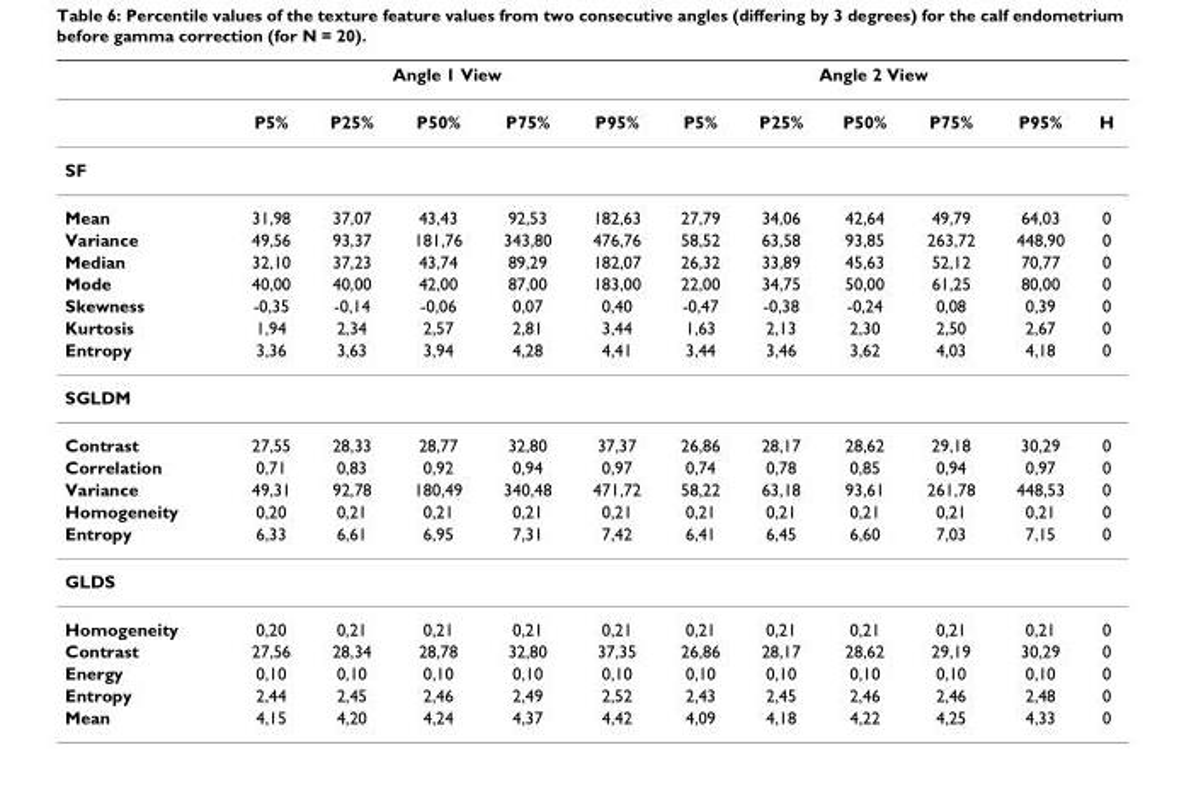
<table><thead><tr><td rowspan="2"></td><td colspan="5">Angle 1 View</td><td colspan="5">Angle 2 View</td><td rowspan="2">H</td></tr><tr><td>P5%</td><td>P25%</td><td>P50%</td><td>P75%</td><td>P95%</td><td>P5%</td><td>P25%</td><td>P50%</td><td>P75%</td><td>P95%</td></tr></thead><tbody><tr><td colspan="12">SF</td></tr><tr><td>Mean</td><td>31,98</td><td>37,07</td><td>43,43</td><td>92,53</td><td>182,63</td><td>27,79</td><td>34,06</td><td>42,64</td><td>49,79</td><td>64,03</td><td>0</td></tr><tr><td>Variance</td><td>49,56</td><td>93,37</td><td>181,76</td><td>343,80</td><td>476,76</td><td>58,52</td><td>63,58</td><td>93,85</td><td>263,72</td><td>448,90</td><td>0</td></tr><tr><td>Median</td><td>32,10</td><td>37,23</td><td>43,74</td><td>89,29</td><td>182,07</td><td>26,32</td><td>33,89</td><td>45,63</td><td>52,12</td><td>70,77</td><td>0</td></tr><tr><td>Mode</td><td>40,00</td><td>40,00</td><td>42,00</td><td>87,00</td><td>183,00</td><td>22,00</td><td>34,75</td><td>50,00</td><td>61,25</td><td>80,00</td><td>0</td></tr><tr><td>Skewness</td><td>-0,35</td><td>-0,14</td><td>-0,06</td><td>0,07</td><td>0,40</td><td>-0,47</td><td>-0,38</td><td>-0,24</td><td>0,08</td><td>0,39</td><td>0</td></tr><tr><td>Kurtosis</td><td>1,94</td><td>2,34</td><td>2,57</td><td>2,81</td><td>3,44</td><td>1,63</td><td>2,13</td><td>2,30</td><td>2,50</td><td>2,67</td><td>0</td></tr><tr><td>Entropy</td><td>3,36</td><td>3,63</td><td>3,94</td><td>4,28</td><td>4,41</td><td>3,44</td><td>3,46</td><td>3,62</td><td>4,03</td><td>4,18</td><td>0</td></tr><tr><td colspan="12">SGLDM</td></tr><tr><td>Contrast</td><td>27,55</td><td>28,33</td><td>28,77</td><td>32,80</td><td>37,37</td><td>26,86</td><td>28,17</td><td>28,62</td><td>29,18</td><td>30,29</td><td>0</td></tr><tr><td>Correlation</td><td>0,71</td><td>0,83</td><td>0,92</td><td>0,94</td><td>0,97</td><td>0,74</td><td>0,78</td><td>0,85</td><td>0,94</td><td>0,97</td><td>0</td></tr><tr><td>Variance</td><td>49,31</td><td>92,78</td><td>180,49</td><td>340,48</td><td>471,72</td><td>58,22</td><td>63,18</td><td>93,61</td><td>261,78</td><td>448,53</td><td>0</td></tr><tr><td>Homogeneity</td><td>0,20</td><td>0,21</td><td>0,21</td><td>0,21</td><td>0,21</td><td>0,21</td><td>0,21</td><td>0,21</td><td>0,21</td><td>0,21</td><td>0</td></tr><tr><td>Entropy</td><td>6,33</td><td>6,61</td><td>6,95</td><td>7,31</td><td>7,42</td><td>6,41</td><td>6,45</td><td>6,60</td><td>7,03</td><td>7,15</td><td>0</td></tr><tr><td colspan="12">GLDS</td></tr><tr><td>Homogeneity</td><td>0,20</td><td>0,21</td><td>0,21</td><td>0,21</td><td>0,21</td><td>0,21</td><td>0,21</td><td>0,21</td><td>0,21</td><td>0,21</td><td>0</td></tr><tr><td>Contrast</td><td>27,56</td><td>28,34</td><td>28,78</td><td>32,80</td><td>37,35</td><td>26,86</td><td>28,17</td><td>28,62</td><td>29,19</td><td>30,29</td><td>0</td></tr><tr><td>Energy</td><td>0,10</td><td>0,10</td><td>0,10</td><td>0,10</td><td>0,10</td><td>0,10</td><td>0,10</td><td>0,10</td><td>0,10</td><td>0,10</td><td>0</td></tr><tr><td>Entropy</td><td>2,44</td><td>2,45</td><td>2,46</td><td>2,49</td><td>2,52</td><td>2,43</td><td>2,45</td><td>2,46</td><td>2,46</td><td>2,48</td><td>0</td></tr><tr><td>Mean</td><td>4,15</td><td>4,20</td><td>4,24</td><td>4,37</td><td>4,42</td><td>4,09</td><td>4,18</td><td>4,22</td><td>4,25</td><td>4,33</td><td>0</td></tr></tbody></table>